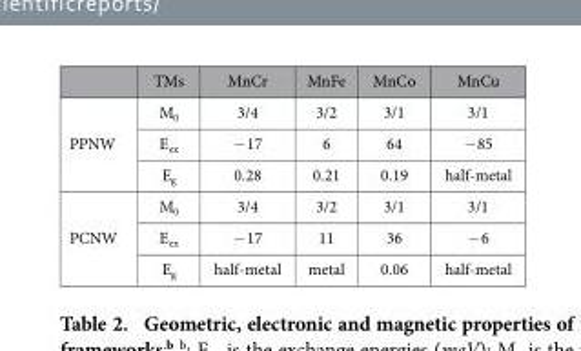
<table><thead><tr><td></td><td>TMs</td><td>MnCr</td><td>MnFe</td><td>MnCo</td><td>MnCu</td></tr></thead><tbody><tr><td rowspan="3">PPNW</td><td>M<sub>0</sub></td><td>3/4</td><td>3/2</td><td>3/1</td><td>3/1</td></tr><tr><td>E<sub>ex</sub></td><td>− 17</td><td>6</td><td>64</td><td>− 85</td></tr><tr><td>E<sub>g</sub></td><td>0.28</td><td>0.21</td><td>0.19</td><td>half-metal</td></tr><tr><td rowspan="3">PCNW</td><td>M<sub>0</sub></td><td>3/4</td><td>3/2</td><td>3/1</td><td>3/1</td></tr><tr><td>E<sub>ex</sub></td><td>− 17</td><td>11</td><td>36</td><td>− 6</td></tr><tr><td>E<sub>g</sub></td><td>half-metal</td><td>metal</td><td>0.06</td><td>half-metal</td></tr></tbody></table>